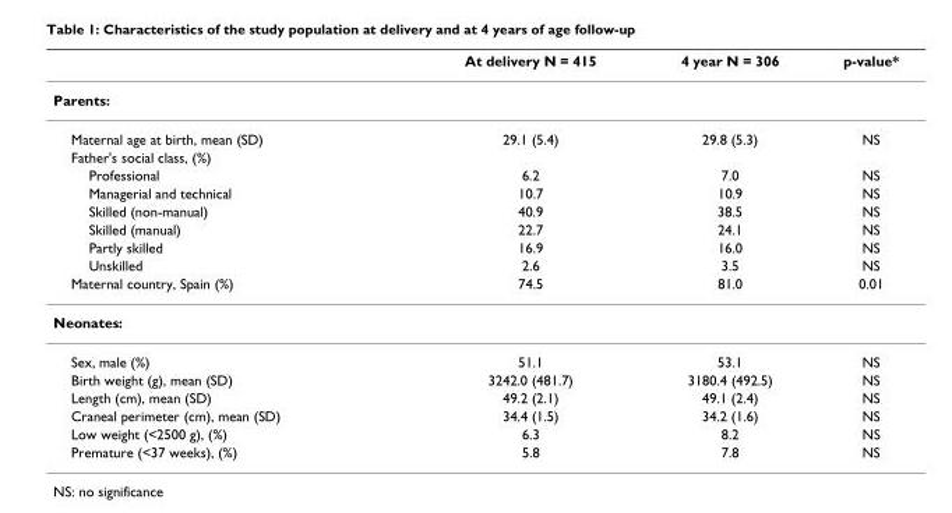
<table><thead><tr><td></td><td>At delivery N = 415</td><td>4 year N = 306</td><td>p-value*</td></tr></thead><tbody><tr><td colspan="4">Parents:</td></tr><tr><td>Maternal age at birth, mean (SD)</td><td>29.1 (5.4)</td><td>29.8 (5.3)</td><td>NS</td></tr><tr><td colspan="4">Father&#x27;s social class, (%)</td></tr><tr><td>Professional</td><td>6.2</td><td>7.0</td><td>NS</td></tr><tr><td>Managerial and technical</td><td>10.7</td><td>10.9</td><td>NS</td></tr><tr><td>Skilled (non-manual)</td><td>40.9</td><td>38.5</td><td>NS</td></tr><tr><td>Skilled (manual)</td><td>22.7</td><td>24.1</td><td>NS</td></tr><tr><td>Partly skilled</td><td>16.9</td><td>16.0</td><td>NS</td></tr><tr><td>Unskilled</td><td>2.6</td><td>3.5</td><td>NS</td></tr><tr><td>Maternal country, Spain (%)</td><td>74.5</td><td>81.0</td><td>0.01</td></tr><tr><td colspan="4">Neonates:</td></tr><tr><td>Sex, male (%)</td><td>51.1</td><td>53.1</td><td>NS</td></tr><tr><td>Birth weight (g), mean (SD)</td><td>3242.0 (481.7)</td><td>3180.4 (492.5)</td><td>NS</td></tr><tr><td>Length (cm), mean (SD)</td><td>49.2 (2.1)</td><td>49.1 (2.4)</td><td>NS</td></tr><tr><td>Craneal perimeter (cm), mean (SD)</td><td>34.4 (1.5)</td><td>34.2 (1.6)</td><td>NS</td></tr><tr><td>Low weight (&lt;2500 g), (%)</td><td>6.3</td><td>8.2</td><td>NS</td></tr><tr><td>Premature (&lt;37 weeks), (%)</td><td>5.8</td><td>7.8</td><td>NS</td></tr></tbody></table>